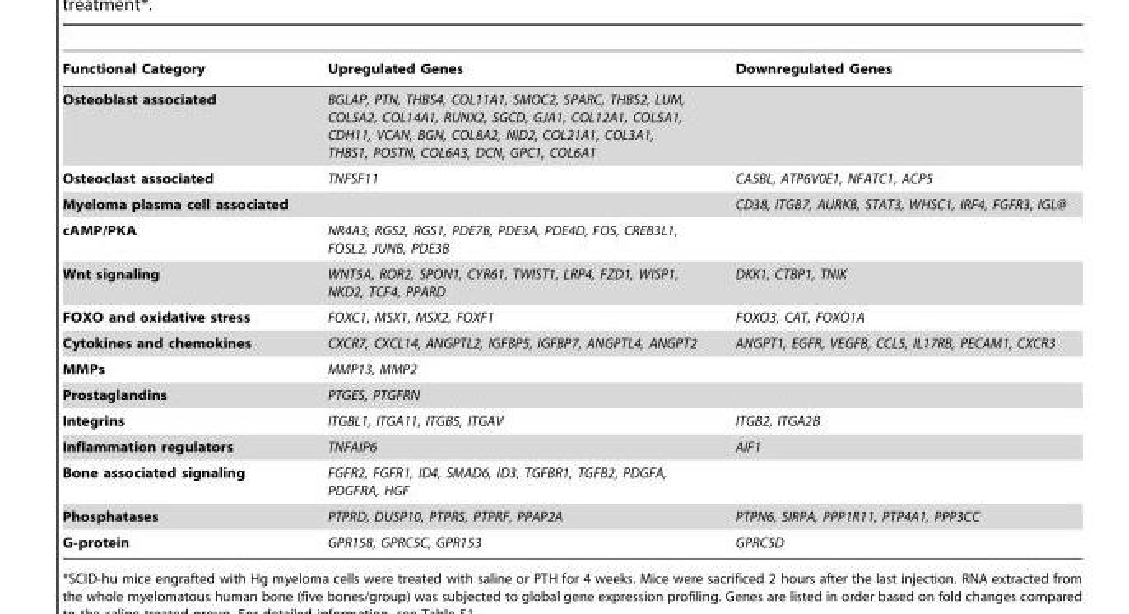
<table><thead><tr><td>Functional Category</td><td>Upregulated Genes</td><td>Downregulated Genes</td></tr></thead><tbody><tr><td>Osteoblast associated</td><td>BGLAP, PTN, THBS4, COL11A1, SMOC2, SPARC, THBS2, LUM, COL5A2, COL14A1, RUNX2, SGCD, GJA1, COL12A1, COL5A1, CDH11, VCAN, BGN, COL8A2, NID2, COL21A1, COL3A1, THBS1, POSTN, COL6A3, DCN, GPC1, COL6A1</td><td></td></tr><tr><td>Osteoclast associated</td><td>TNFSF11</td><td>CA5BL, ATP6V0E1, NFATC1, ACP5</td></tr><tr><td>Myeloma plasma cell associated</td><td></td><td>CD38, ITGB7, AURKB, STAT3, WHSC1, IRF4, FGFR3, IGL@</td></tr><tr><td>cAMP/PKA</td><td>NR4A3, RGS2, RGS1, PDE7B, PDE3A, PDE4D, FOS, CREB3L1, FOSL2, JUNB, PDE3B</td><td></td></tr><tr><td>Wnt signaling</td><td>WNT5A, ROR2, SPON1, CYR61, TWIST1, LRP4, FZD1, WISP1, NKD2, TCF4, PPARD</td><td>DKK1, CTBP1, TNIK</td></tr><tr><td>FOXO and oxidative stress</td><td>FOXC1, MSX1, MSX2, FOXF1</td><td>FOXO3, CAT, FOXO1A</td></tr><tr><td>Cytokines and chemokines</td><td>CXCR7, CXCL14, ANGPTL2, IGFBP5, IGFBP7, ANGPTL4, ANGPT2</td><td>ANGPT1, EGFR, VEGFB, CCL5, IL17RB, PECAM1, CXCR3</td></tr><tr><td>MMPs</td><td>MMP13, MMP2</td><td></td></tr><tr><td>Prostaglandins</td><td>PTGES, PTGFRN</td><td></td></tr><tr><td>Integrins</td><td>ITGBL1, ITGA11, ITGB5, ITGAV</td><td>ITGB2, ITGA2B</td></tr><tr><td>Inflammation regulators</td><td>TNFAIP6</td><td>AIF1</td></tr><tr><td>Bone associated signaling</td><td>FGFR2, FGFR1, ID4, SMAD6, ID3, TGFBR1, TGFB2, PDGFA, PDGFRA, HGF</td><td></td></tr><tr><td>Phosphatases</td><td>PTPRD, DUSP10, PTPRS, PTPRF, PPAP2A</td><td>PTPN6, SIRPA, PPP1R11, PTP4A1, PPP3CC</td></tr><tr><td>G-protein</td><td>GPR158, GPRC5C, GPR153</td><td>GPRC5D</td></tr></tbody></table>